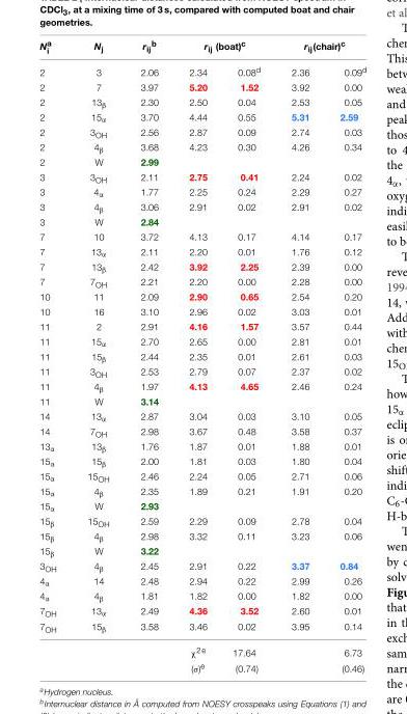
<table><thead><tr><td rowspan="2">N<sup>a</sup> <sub>i</sub> 2</td><td rowspan="2">N<sub>j</sub> 3</td><td rowspan="2">r<sub>ij</sub><sup>b</sup> 2.06</td><td colspan="2">r<sub>ij</sub> (boat)<sup>c</sup></td><td colspan="2">r<sub>ij</sub>(chair)<sup>c</sup></td></tr><tr><td>2.34</td><td>0.08<sup>d</sup></td><td>2.36</td><td>0.09<sup>d</sup></td></tr></thead><tbody><tr><td>2</td><td>7</td><td>3.97</td><td>5.20</td><td>1.52</td><td>3.92</td><td>0.00</td></tr><tr><td>2</td><td>13<sub>β</sub></td><td>2.30</td><td>2.50</td><td>0.04</td><td>2.53</td><td>0.05</td></tr><tr><td>2</td><td>15<sub>α</sub></td><td>3.70</td><td>4.44</td><td>0.55</td><td>5.31</td><td>2.59</td></tr><tr><td>2</td><td>3<sub>OH</sub></td><td>2.56</td><td>2.87</td><td>0.09</td><td>2.74</td><td>0.03</td></tr><tr><td>2</td><td>4<sub>β</sub></td><td>3.68</td><td>4.23</td><td>0.30</td><td>4.26</td><td>0.34</td></tr><tr><td>2</td><td>W</td><td>2.99</td><td></td><td></td><td></td><td></td></tr><tr><td>3</td><td>3<sub>OH</sub></td><td>2.11</td><td>2.75</td><td>0.41</td><td>2.24</td><td>0.02</td></tr><tr><td>3</td><td>4α</td><td>1.77</td><td>2.25</td><td>0.24</td><td>2.29</td><td>0.27</td></tr><tr><td>3</td><td>4<sub>β</sub></td><td>3.06</td><td>2.91</td><td>0.02</td><td>2.91</td><td>0.02</td></tr><tr><td>3</td><td>W</td><td>2.84</td><td></td><td></td><td></td><td></td></tr><tr><td>7</td><td>10</td><td>3.72</td><td>4.13</td><td>0.17</td><td>4.14</td><td>0.17</td></tr><tr><td>7</td><td>13<sub>α</sub></td><td>2.11</td><td>2.20</td><td>0.01</td><td>1.76</td><td>0.12</td></tr><tr><td>7</td><td>13<sub>β</sub></td><td>2.42</td><td>3.92</td><td>2.25</td><td>2.39</td><td>0.00</td></tr><tr><td>7</td><td>7<sub>OH</sub></td><td>2.21</td><td>2.20</td><td>0.00</td><td>2.28</td><td>0.00</td></tr><tr><td>10</td><td>11</td><td>2.09</td><td>2.90</td><td>0.65</td><td>2.54</td><td>0.20</td></tr><tr><td>10</td><td>16</td><td>3.10</td><td>2.96</td><td>0.02</td><td>3.03</td><td>0.01</td></tr><tr><td>11</td><td>2</td><td>2.91</td><td>4.16</td><td>1.57</td><td>3.57</td><td>0.44</td></tr><tr><td>11</td><td>15<sub>α</sub></td><td>2.70</td><td>2.65</td><td>0.00</td><td>2.81</td><td>0.01</td></tr><tr><td>11</td><td>15<sub>β</sub></td><td>2.44</td><td>2.35</td><td>0.01</td><td>2.61</td><td>0.03</td></tr><tr><td>11</td><td>3<sub>OH</sub></td><td>2.53</td><td>2.79</td><td>0.07</td><td>2.37</td><td>0.02</td></tr><tr><td>11</td><td>4<sub>β</sub></td><td>1.97</td><td>4.13</td><td>4.65</td><td>2.46</td><td>0.24</td></tr><tr><td>11</td><td>W</td><td>3.14</td><td></td><td></td><td></td><td></td></tr><tr><td>14</td><td>13<sub>α</sub></td><td>2.87</td><td>3.04</td><td>0.03</td><td>3.10</td><td>0.05</td></tr><tr><td>14</td><td>7<sub>OH</sub></td><td>2.98</td><td>3.67</td><td>0.48</td><td>3.58</td><td>0.37</td></tr><tr><td>13<sub>α</sub></td><td>13<sub>β</sub></td><td>1.76</td><td>1.87</td><td>0.01</td><td>1.88</td><td>0.01</td></tr><tr><td>15<sub>α</sub></td><td>15<sub>β</sub></td><td>2.00</td><td>1.81</td><td>0.03</td><td>1.80</td><td>0.04</td></tr><tr><td>15<sub>α</sub></td><td>15<sub>OH</sub></td><td>2.46</td><td>2.24</td><td>0.05</td><td>2.71</td><td>0.06</td></tr><tr><td>15<sub>α</sub></td><td>4<sub>β</sub></td><td>2.35</td><td>1.89</td><td>0.21</td><td>1.91</td><td>0.20</td></tr><tr><td>15<sub>α</sub></td><td>W</td><td>2.93</td><td></td><td></td><td></td><td></td></tr><tr><td>15<sub>β</sub></td><td>15<sub>OH</sub></td><td>2.59</td><td>2.29</td><td>0.09</td><td>2.78</td><td>0.04</td></tr><tr><td>15<sub>β</sub></td><td>4<sub>β</sub></td><td>2.98</td><td>3.32</td><td>0.11</td><td>3.23</td><td>0.06</td></tr><tr><td>15<sub>β</sub></td><td>W</td><td>3.22</td><td></td><td></td><td></td><td></td></tr><tr><td>3<sub>OH</sub></td><td>4<sub>β</sub></td><td>2.45</td><td>2.91</td><td>0.22</td><td>3.37</td><td>0.84</td></tr><tr><td>4α</td><td>14</td><td>2.48</td><td>2.94</td><td>0.22</td><td>2.99</td><td>0.26</td></tr><tr><td>4α</td><td>4<sub>β</sub></td><td>1.81</td><td>1.82</td><td>0.00</td><td>1.82</td><td>0.00</td></tr><tr><td>7<sub>OH</sub></td><td>13<sub>α</sub></td><td>2.49</td><td>4.36</td><td>3.52</td><td>2.60</td><td>0.01</td></tr><tr><td rowspan="3">7<sub>OH</sub></td><td>15<sub>β</sub></td><td>3.58</td><td>3.46</td><td>0.02</td><td>3.95</td><td>0.14</td></tr><tr><td></td><td></td><td>χ<sup>2e</sup></td><td>17.64</td><td></td><td>6.73</td></tr><tr><td></td><td></td><td>(σ)<sup>e</sup></td><td>(0.74)</td><td></td><td>(0.46)</td></tr></tbody></table>